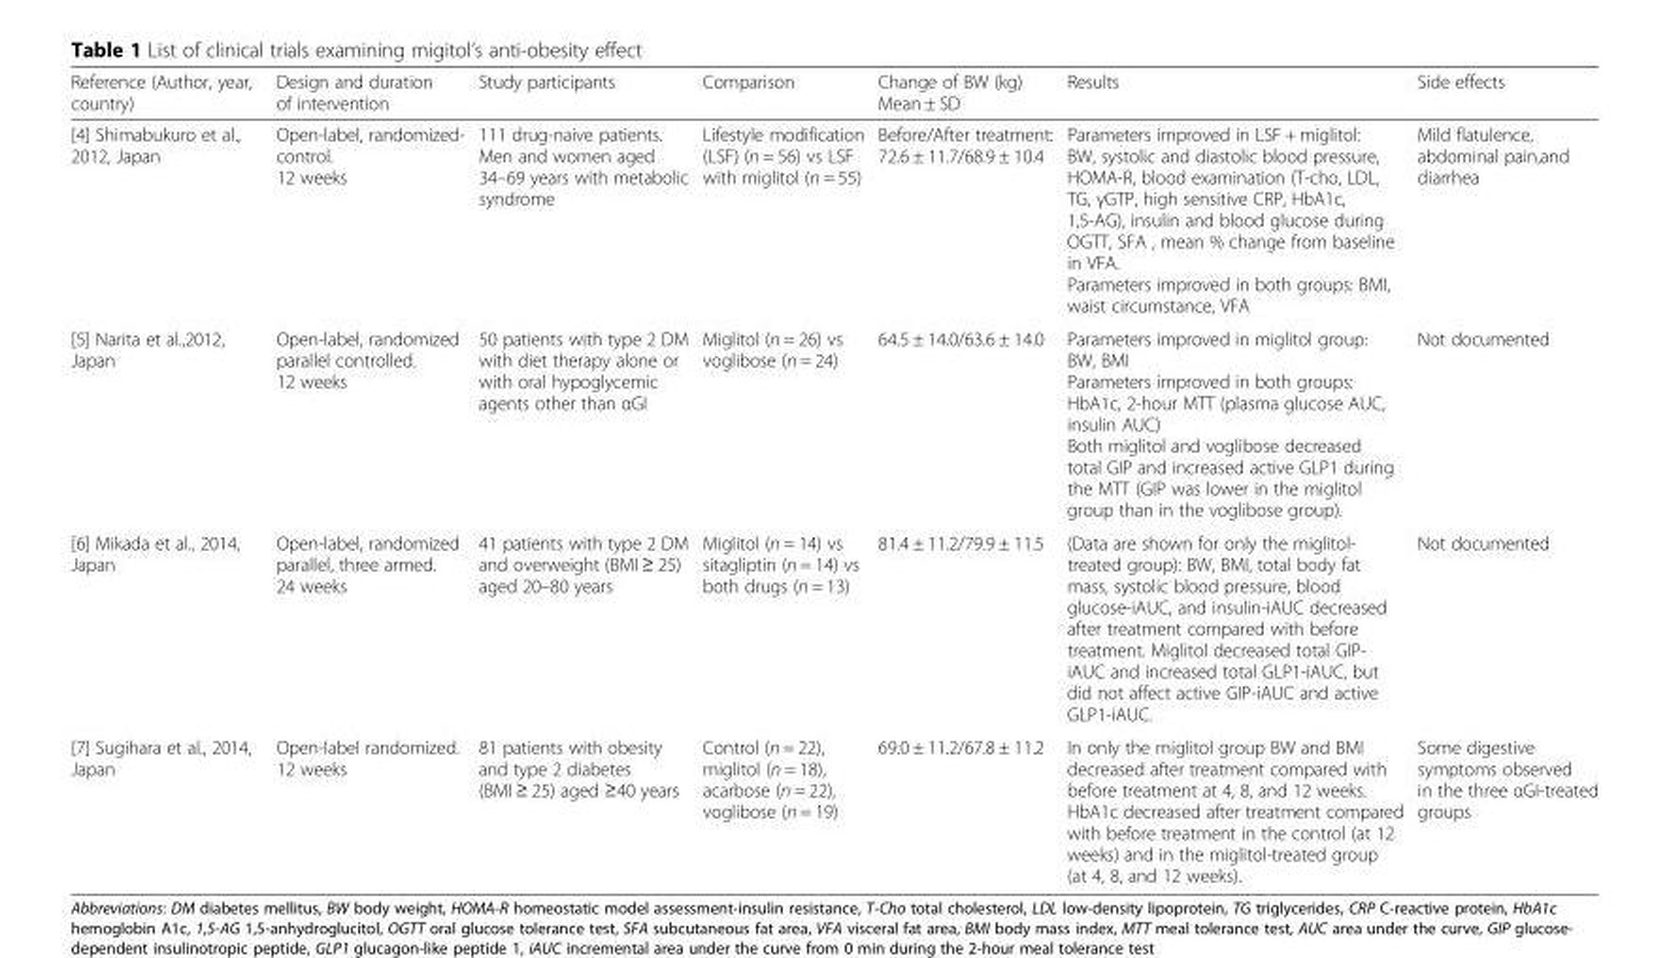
<table><thead><tr><td>Reference (Author, year, country)</td><td>Design and duration of intervention</td><td>Study participants</td><td>Comparison</td><td>Change of BW (kg) Mean ± SD</td><td>Results</td><td>Side effects</td></tr></thead><tbody><tr><td>[4] Shimabukuro et al., 2012, Japan</td><td>Open-label, randomized- control. 12 weeks</td><td>111 drug-naive patients. Men and women aged 34–69 years with metabolic syndrome</td><td>Lifestyle modification (LSF) (n = 56) vs LSF with miglitol (n = 55)</td><td>Before/After treatment: 72.6 ± 11.7/68.9 ± 10.4</td><td>Parameters improved in LSF + miglitol: BW, systolic and diastolic blood pressure, HOMA-R, blood examination (T-cho, LDL, TG, γGTP, high sensitive CRP, HbA1c, 1,5-AG), insulin and blood glucose during OGTT, SFA , mean % change from baseline in VFA. Parameters improved in both groups: BMI, waist circumstance, VFA</td><td>Mild flatulence, abdominal pain,and diarrhea</td></tr><tr><td>[5] Narita et al.,2012, Japan</td><td>Open-label, randomized parallel controlled. 12 weeks</td><td>50 patients with type 2 DM with diet therapy alone or with oral hypoglycemic agents other than αGI</td><td>Miglitol (n = 26) vs voglibose (n = 24)</td><td>64.5 ± 14.0/63.6 ± 14.0</td><td>Parameters improved in miglitol group: BW, BMI Parameters improved in both groups: HbA1c, 2-hour MTT (plasma glucose AUC, insulin AUC) Both miglitol and voglibose decreased total GIP and increased active GLP1 during the MTT (GIP was lower in the miglitol group than in the voglibose group).</td><td>Not documented</td></tr><tr><td>[6] Mikada et al., 2014, Japan</td><td>Open-label, randomized parallel, three armed. 24 weeks</td><td>41 patients with type 2 DM and overweight (BMI ≥ 25) aged 20–80 years</td><td>Miglitol (n = 14) vs sitagliptin (n = 14) vs both drugs (n = 13)</td><td>81.4 ± 11.2/79.9 ± 11.5</td><td>(Data are shown for only the miglitol- treated group): BW, BMI, total body fat mass, systolic blood pressure, blood glucose-iAUC, and insulin-iAUC decreased after treatment compared with before treatment. Miglitol decreased total GIP- iAUC and increased total GLP1-iAUC, but did not affect active GIP-iAUC and active GLP1-iAUC.</td><td>Not documented</td></tr><tr><td>[7] Sugihara et al., 2014, Japan</td><td>Open-label randomized. 12 weeks</td><td>81 patients with obesity and type 2 diabetes (BMI ≥ 25) aged ≥40 years</td><td>Control (n = 22), miglitol (n = 18), acarbose (n = 22), voglibose (n = 19)</td><td>69.0 ± 11.2/67.8 ± 11.2</td><td>In only the miglitol group BW and BMI decreased after treatment compared with before treatment at 4, 8, and 12 weeks. HbA1c decreased after treatment compared with before treatment in the control (at 12 weeks) and in the miglitol-treated group (at 4, 8, and 12 weeks).</td><td>Some digestive symptoms observed in the three αGI-treated groups</td></tr></tbody></table>